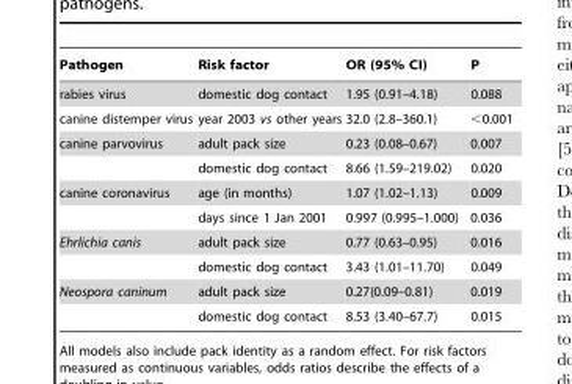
<table><thead><tr><td>Pathogen</td><td>Risk factor</td><td>OR (95% CI)</td><td>P</td></tr></thead><tbody><tr><td>rabies virus</td><td>domestic dog contact</td><td>1.95 (0.91–4.18)</td><td>0.088</td></tr><tr><td>canine distemper virus</td><td>year 2003 vs other years</td><td>32.0 (2.8–360.1)</td><td>&lt;0.001</td></tr><tr><td rowspan="2">canine parvovirus</td><td>adult pack size</td><td>0.23 (0.08–0.67)</td><td>0.007</td></tr><tr><td>domestic dog contact</td><td>8.66 (1.59–219.02)</td><td>0.020</td></tr><tr><td rowspan="2">canine coronavirus</td><td>age (in months)</td><td>1.07 (1.02–1.13)</td><td>0.009</td></tr><tr><td>days since 1 Jan 2001</td><td>0.997 (0.995–1.000)</td><td>0.036</td></tr><tr><td rowspan="2">Ehrlichia canis</td><td>adult pack size</td><td>0.77 (0.63–0.95)</td><td>0.016</td></tr><tr><td>domestic dog contact</td><td>3.43 (1.01–11.70)</td><td>0.049</td></tr><tr><td rowspan="2">Neospora caninum</td><td>adult pack size</td><td>0.27(0.09–0.81)</td><td>0.019</td></tr><tr><td>domestic dog contact</td><td>8.53 (3.40–67.7)</td><td>0.015</td></tr></tbody></table>